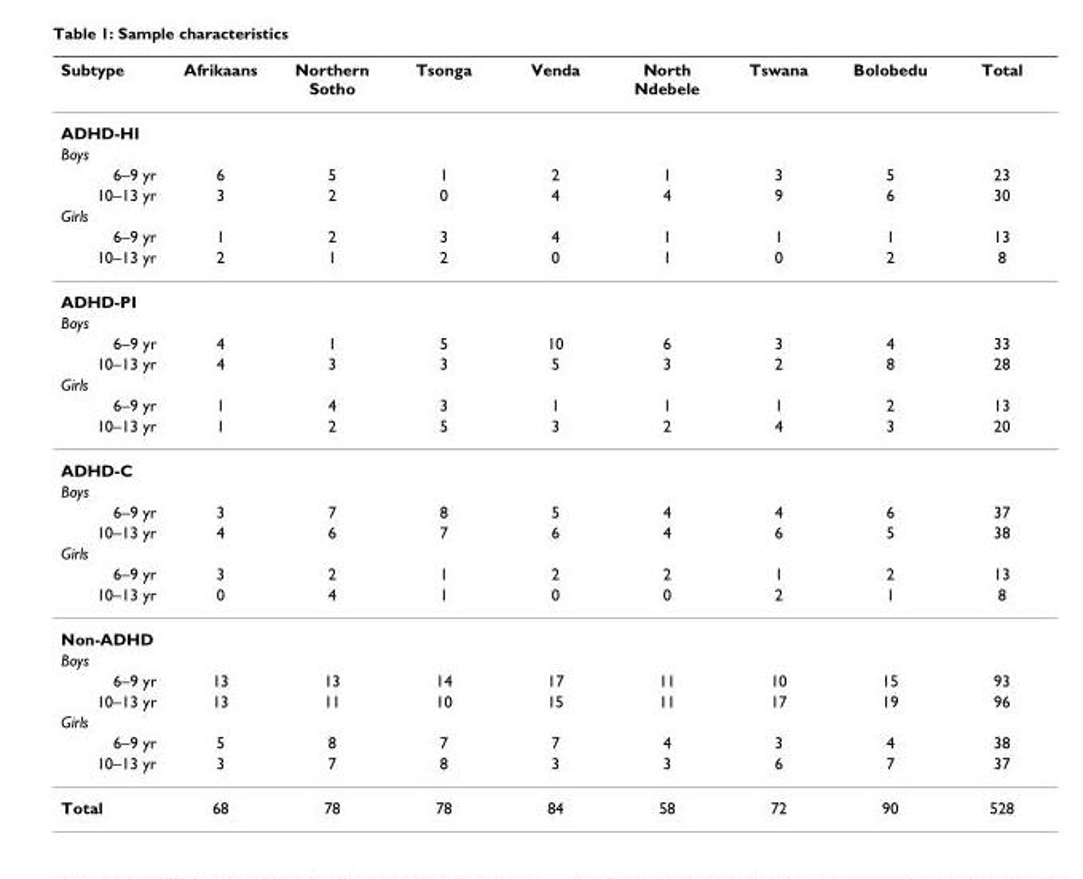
<table><thead><tr><td>Subtype</td><td>Afrikaans</td><td>Northern Sotho</td><td>Tsonga</td><td>Venda</td><td>North Ndebele</td><td>Tswana</td><td>Bolobedu</td><td>Total</td></tr></thead><tbody><tr><td colspan="9">ADHD-HI</td></tr><tr><td colspan="9">Boys</td></tr><tr><td>6–9 yr</td><td>6</td><td>5</td><td>1</td><td>2</td><td>1</td><td>3</td><td>5</td><td>23</td></tr><tr><td>10–13 yr</td><td>3</td><td>2</td><td>0</td><td>4</td><td>4</td><td>9</td><td>6</td><td>30</td></tr><tr><td colspan="9">Girls</td></tr><tr><td>6–9 yr</td><td>1</td><td>2</td><td>3</td><td>4</td><td>1</td><td>1</td><td>1</td><td>13</td></tr><tr><td>10–13 yr</td><td>2</td><td>1</td><td>2</td><td>0</td><td>1</td><td>0</td><td>2</td><td>8</td></tr><tr><td colspan="9">ADHD-PI</td></tr><tr><td colspan="9">Boys</td></tr><tr><td>6–9 yr</td><td>4</td><td>1</td><td>5</td><td>10</td><td>6</td><td>3</td><td>4</td><td>33</td></tr><tr><td>10–13 yr</td><td>4</td><td>3</td><td>3</td><td>5</td><td>3</td><td>2</td><td>8</td><td>28</td></tr><tr><td colspan="9">Girls</td></tr><tr><td>6–9 yr</td><td>1</td><td>4</td><td>3</td><td>1</td><td>1</td><td>1</td><td>2</td><td>13</td></tr><tr><td>10–13 yr</td><td>1</td><td>2</td><td>5</td><td>3</td><td>2</td><td>4</td><td>3</td><td>20</td></tr><tr><td colspan="9">ADHD-C</td></tr><tr><td colspan="9">Boys</td></tr><tr><td>6–9 yr</td><td>3</td><td>7</td><td>8</td><td>5</td><td>4</td><td>4</td><td>6</td><td>37</td></tr><tr><td>10–13 yr</td><td>4</td><td>6</td><td>7</td><td>6</td><td>4</td><td>6</td><td>5</td><td>38</td></tr><tr><td colspan="9">Girls</td></tr><tr><td>6–9 yr</td><td>3</td><td>2</td><td>1</td><td>2</td><td>2</td><td>1</td><td>2</td><td>13</td></tr><tr><td>10–13 yr</td><td>0</td><td>4</td><td>1</td><td>0</td><td>0</td><td>2</td><td>1</td><td>8</td></tr><tr><td colspan="9">Non-ADHD</td></tr><tr><td colspan="9">Boys</td></tr><tr><td>6–9 yr</td><td>13</td><td>13</td><td>14</td><td>17</td><td>11</td><td>10</td><td>15</td><td>93</td></tr><tr><td>10–13 yr</td><td>13</td><td>11</td><td>10</td><td>15</td><td>11</td><td>17</td><td>19</td><td>96</td></tr><tr><td colspan="9">Girls</td></tr><tr><td>6–9 yr</td><td>5</td><td>8</td><td>7</td><td>7</td><td>4</td><td>3</td><td>4</td><td>38</td></tr><tr><td>10–13 yr</td><td>3</td><td>7</td><td>8</td><td>3</td><td>3</td><td>6</td><td>7</td><td>37</td></tr><tr><td>Total</td><td>68</td><td>78</td><td>78</td><td>84</td><td>58</td><td>72</td><td>90</td><td>528</td></tr></tbody></table>